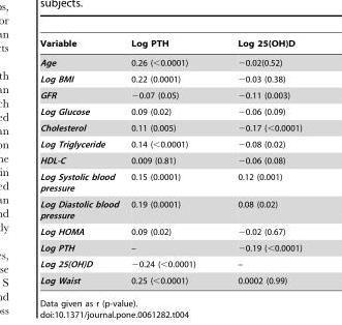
<table><thead><tr><td>Variable</td><td>Log PTH</td><td>Log 25(OH)D</td></tr></thead><tbody><tr><td>Age</td><td>0.26 (&lt;0.0001)</td><td>−0.02(0.52)</td></tr><tr><td>Log BMI</td><td>0.22 (0.0001)</td><td>−0.03 (0.38)</td></tr><tr><td>GFR</td><td>−0.07 (0.05)</td><td>−0.11 (0.003)</td></tr><tr><td>Log Glucose</td><td>0.09 (0.02)</td><td>−0.06 (0.09)</td></tr><tr><td>Cholesterol</td><td>0.11 (0.005)</td><td>−0.17 (&lt;0.0001)</td></tr><tr><td>Log Triglyceride</td><td>0.14 (&lt;0.0001)</td><td>−0.08 (0.02)</td></tr><tr><td>HDL-C</td><td>0.009 (0.81)</td><td>−0.06 (0.08)</td></tr><tr><td>Log Systolic blood pressure</td><td>0.15 (0.0001)</td><td>0.12 (0.001)</td></tr><tr><td>Log Diastolic blood pressure</td><td>0.19 (0.0001)</td><td>0.08 (0.02)</td></tr><tr><td>Log HOMA</td><td>0.09 (0.02)</td><td>−0.02 (0.67)</td></tr><tr><td>Log PTH</td><td>–</td><td>−0.19 (&lt;0.0001)</td></tr><tr><td>Log 25(OH)D</td><td>−0.24 (&lt;0.0001)</td><td>–</td></tr><tr><td>Log Waist</td><td>0.25 (&lt;0.0001)</td><td>0.0002 (0.99)</td></tr></tbody></table>